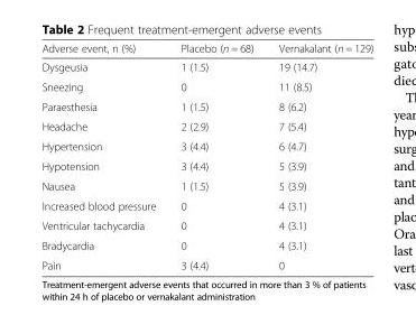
<table><thead><tr><td>Adverse event, n (%)</td><td>Placebo (n = 68)</td><td>Vernakalant (n = 129)</td></tr></thead><tbody><tr><td>Dysgeusia</td><td>1 (1.5)</td><td>19 (14.7)</td></tr><tr><td>Sneezing</td><td>0</td><td>11 (8.5)</td></tr><tr><td>Paraesthesia</td><td>1 (1.5)</td><td>8 (6.2)</td></tr><tr><td>Headache</td><td>2 (2.9)</td><td>7 (5.4)</td></tr><tr><td>Hypertension</td><td>3 (4.4)</td><td>6 (4.7)</td></tr><tr><td>Hypotension</td><td>3 (4.4)</td><td>5 (3.9)</td></tr><tr><td>Nausea</td><td>1 (1.5)</td><td>5 (3.9)</td></tr><tr><td>Increased blood pressure</td><td>0</td><td>4 (3.1)</td></tr><tr><td>Ventricular tachycardia</td><td>0</td><td>4 (3.1)</td></tr><tr><td>Bradycardia</td><td>0</td><td>4 (3.1)</td></tr><tr><td>Pain</td><td>3 (4.4)</td><td>0</td></tr></tbody></table>